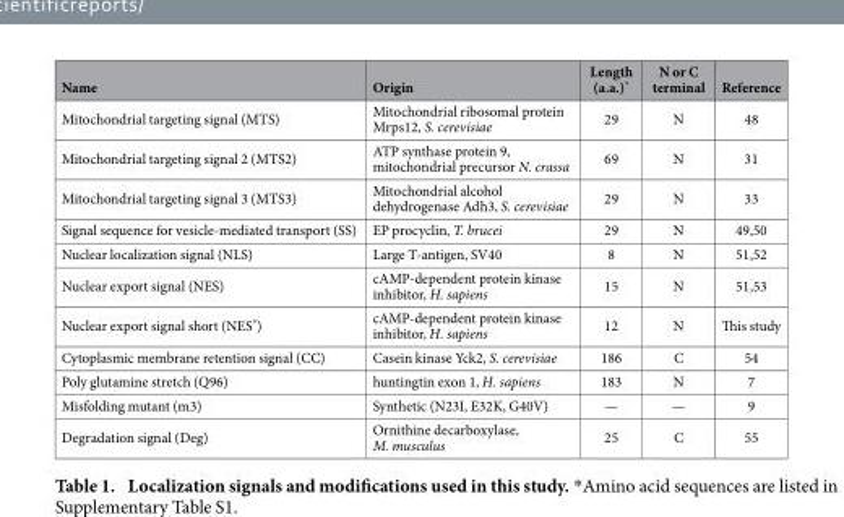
<table><thead><tr><td>Name</td><td>Origin</td><td>Length (a.a.)*</td><td>N or C terminal</td><td>Reference</td></tr></thead><tbody><tr><td>Mitochondrial targeting signal (MTS)</td><td>Mitochondrial ribosomal protein Mrps12, S. cerevisiae</td><td>29</td><td>N</td><td>48</td></tr><tr><td>Mitochondrial targeting signal 2 (MTS2)</td><td>ATP synthase protein 9, mitochondrial precursor N. crassa</td><td>69</td><td>N</td><td>31</td></tr><tr><td>Mitochondrial targeting signal 3 (MTS3)</td><td>Mitochondrial alcohol dehydrogenase Adh3, S. cerevisiae</td><td>29</td><td>N</td><td>33</td></tr><tr><td>Signal sequence for vesicle-mediated transport (SS)</td><td>EP procyclin, T. brucei</td><td>29</td><td>N</td><td>49,50</td></tr><tr><td>Nuclear localization signal (NLS)</td><td>Large T-antigen, SV40</td><td>8</td><td>N</td><td>51,52</td></tr><tr><td>Nuclear export signal (NES)</td><td>cAMP-dependent protein kinase inhibitor, H. sapiens</td><td>15</td><td>N</td><td>51,53</td></tr><tr><td>Nuclear export signal short (NES*)</td><td>cAMP-dependent protein kinase inhibitor, H. sapiens</td><td>12</td><td>N</td><td>This study</td></tr><tr><td>Cytoplasmic membrane retention signal (CC)</td><td>Casein kinase Yck2, S. cerevisiae</td><td>186</td><td>C</td><td>54</td></tr><tr><td>Poly glutamine stretch (Q96)</td><td>huntingtin exon 1, H. sapiens</td><td>183</td><td>N</td><td>7</td></tr><tr><td>Misfolding mutant (m3)</td><td>Synthetic (N23I, E32K, G40V)</td><td>—</td><td>—</td><td>9</td></tr><tr><td>Degradation signal (Deg)</td><td>Ornithine decarboxylase, M. musculus</td><td>25</td><td>C</td><td>55</td></tr></tbody></table>